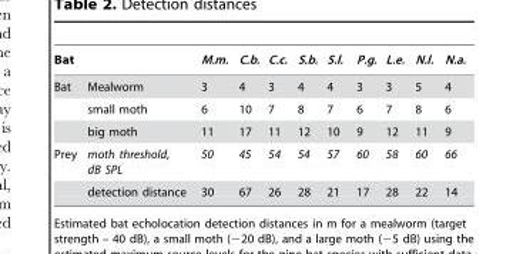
<table><thead><tr><td colspan="2">Bat</td><td rowspan="2">M.m. 3</td><td rowspan="2">C.b. 4</td><td rowspan="2">C.c. 3</td><td rowspan="2">S.b. 4</td><td rowspan="2">S.l. 4</td><td rowspan="2">P.g. 3</td><td rowspan="2">L.e. 3</td><td rowspan="2">N.l. 5</td><td rowspan="2">N.a. 4</td></tr><tr><td>Bat</td><td>Mealworm</td></tr></thead><tbody><tr><td></td><td>small moth</td><td>6</td><td>10</td><td>7</td><td>8</td><td>7</td><td>6</td><td>7</td><td>8</td><td>6</td></tr><tr><td></td><td>big moth</td><td>11</td><td>17</td><td>11</td><td>12</td><td>10</td><td>9</td><td>12</td><td>11</td><td>9</td></tr><tr><td rowspan="2">Prey</td><td>moth threshold, dB SPL</td><td>50</td><td>45</td><td>54</td><td>54</td><td>57</td><td>60</td><td>58</td><td>60</td><td>66</td></tr><tr><td>detection distance</td><td>30</td><td>67</td><td>26</td><td>28</td><td>21</td><td>17</td><td>28</td><td>22</td><td>14</td></tr></tbody></table>